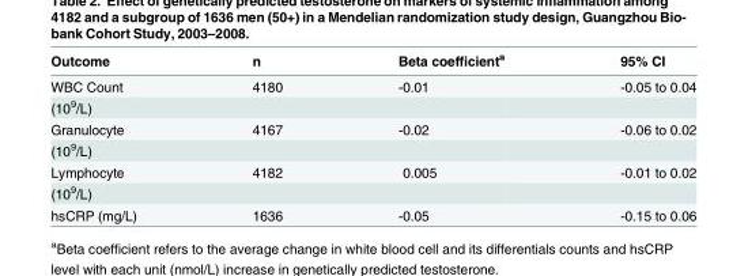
<table><thead><tr><td>Outcome</td><td>n</td><td>Beta coefficient<sup>a</sup></td><td>95% CI</td></tr></thead><tbody><tr><td>WBC Count</td><td>4180</td><td>-0.01</td><td>-0.05 to 0.04</td></tr><tr><td colspan="4">(10<sup>9</sup>/L)</td></tr><tr><td>Granulocyte</td><td>4167</td><td>-0.02</td><td>-0.06 to 0.02</td></tr><tr><td colspan="4">(10<sup>9</sup>/L)</td></tr><tr><td>Lymphocyte</td><td>4182</td><td>0.005</td><td>-0.01 to 0.02</td></tr><tr><td colspan="4">(10<sup>9</sup>/L)</td></tr><tr><td>hsCRP (mg/L)</td><td>1636</td><td>-0.05</td><td>-0.15 to 0.06</td></tr></tbody></table>